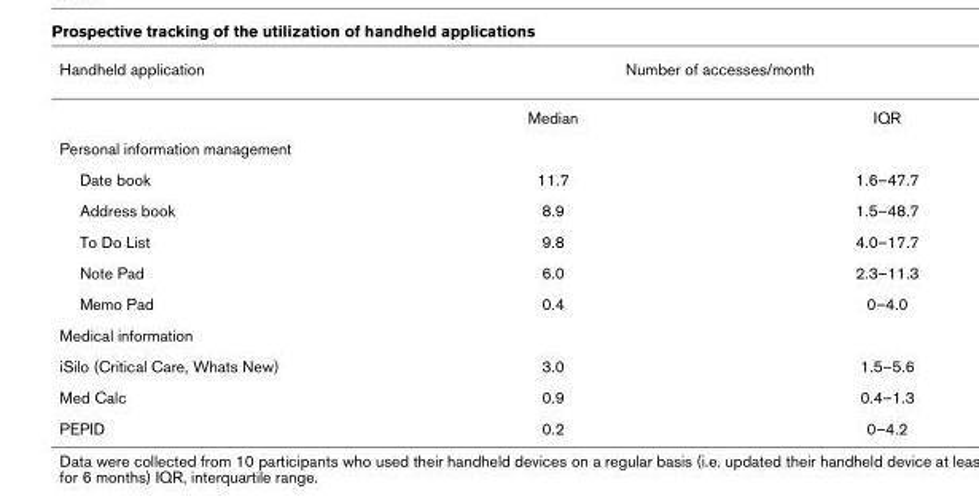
<table><thead><tr><td rowspan="2">Handheld application</td><td colspan="2">Number of accesses/month</td></tr><tr><td>Median</td><td>IQR</td></tr></thead><tbody><tr><td colspan="3">Personal information management</td></tr><tr><td>Date book</td><td>11.7</td><td>1.6–47.7</td></tr><tr><td>Address book</td><td>8.9</td><td>1.5–48.7</td></tr><tr><td>To Do List</td><td>9.8</td><td>4.0–17.7</td></tr><tr><td>Note Pad</td><td>6.0</td><td>2.3–11.3</td></tr><tr><td>Memo Pad</td><td>0.4</td><td>0–4.0</td></tr><tr><td colspan="3">Medical information</td></tr><tr><td>iSilo (Critical Care, Whats New)</td><td>3.0</td><td>1.5–5.6</td></tr><tr><td>Med Calc</td><td>0.9</td><td>0.4–1.3</td></tr><tr><td>PEPID</td><td>0.2</td><td>0–4.2</td></tr></tbody></table>